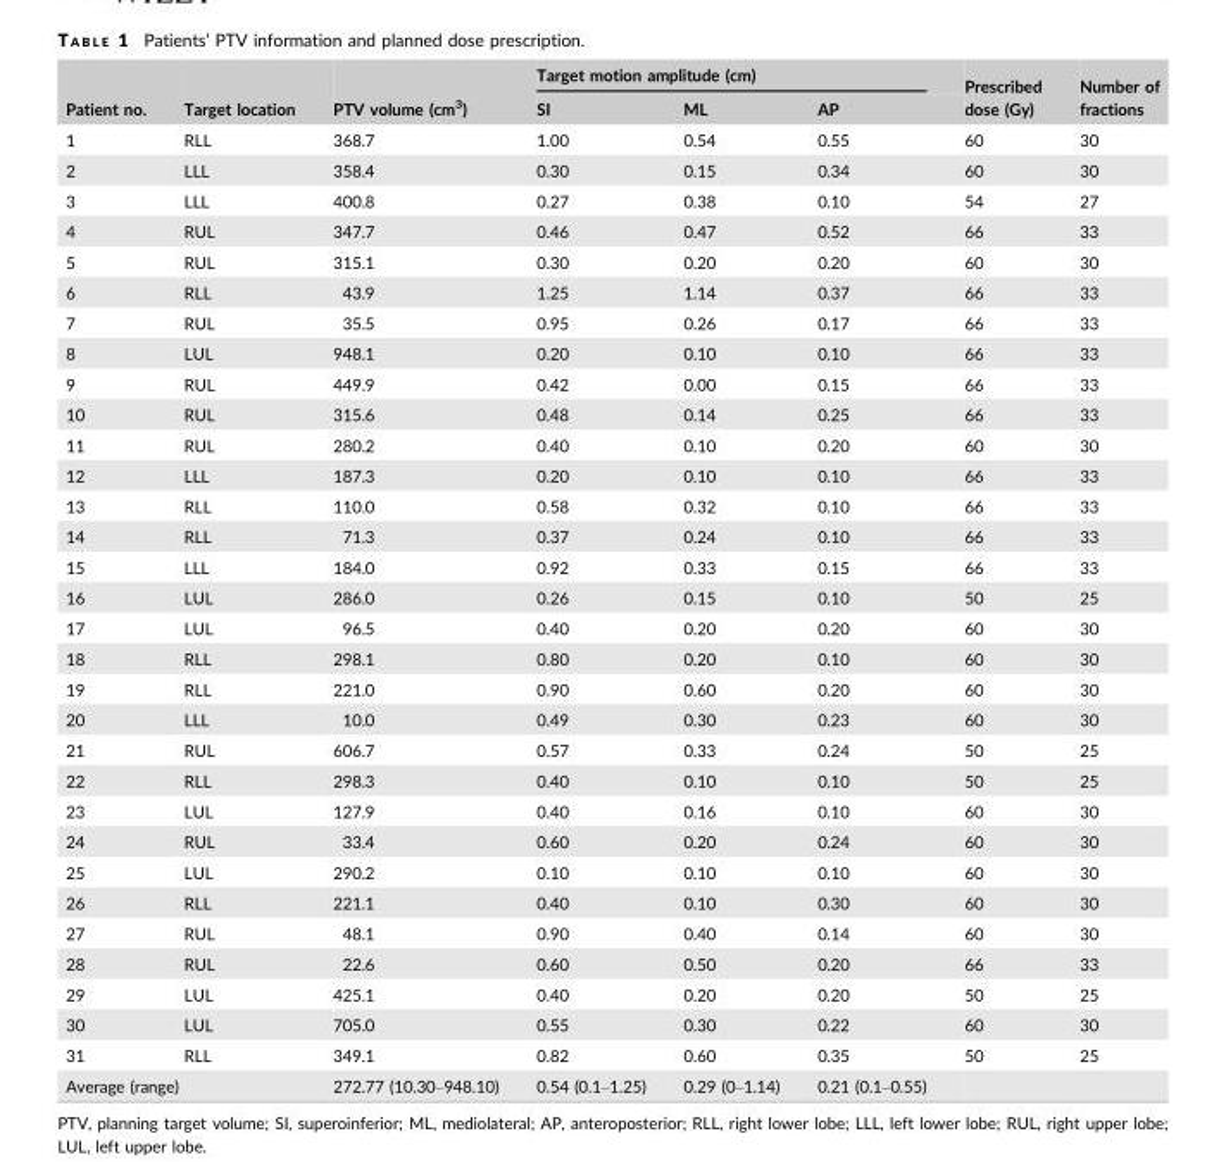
<table><thead><tr><td rowspan="2">Patient no.</td><td rowspan="2">Target location</td><td rowspan="2">PTV volume (cm<sup>3</sup>)</td><td colspan="3">Target motion amplitude (cm)</td><td rowspan="2">Prescribed dose (Gy)</td><td rowspan="2">Number of fractions</td></tr><tr><td>SI</td><td>ML</td><td>AP</td></tr></thead><tbody><tr><td>1</td><td>RLL</td><td>368.7</td><td>1.00</td><td>0.54</td><td>0.55</td><td>60</td><td>30</td></tr><tr><td>2</td><td>LLL</td><td>358.4</td><td>0.30</td><td>0.15</td><td>0.34</td><td>60</td><td>30</td></tr><tr><td>3</td><td>LLL</td><td>400.8</td><td>0.27</td><td>0.38</td><td>0.10</td><td>54</td><td>27</td></tr><tr><td>4</td><td>RUL</td><td>347.7</td><td>0.46</td><td>0.47</td><td>0.52</td><td>66</td><td>33</td></tr><tr><td>5</td><td>RUL</td><td>315.1</td><td>0.30</td><td>0.20</td><td>0.20</td><td>60</td><td>30</td></tr><tr><td>6</td><td>RLL</td><td>43.9</td><td>1.25</td><td>1.14</td><td>0.37</td><td>66</td><td>33</td></tr><tr><td>7</td><td>RUL</td><td>35.5</td><td>0.95</td><td>0.26</td><td>0.17</td><td>66</td><td>33</td></tr><tr><td>8</td><td>LUL</td><td>948.1</td><td>0.20</td><td>0.10</td><td>0.10</td><td>66</td><td>33</td></tr><tr><td>9</td><td>RUL</td><td>449.9</td><td>0.42</td><td>0.00</td><td>0.15</td><td>66</td><td>33</td></tr><tr><td>10</td><td>RUL</td><td>315.6</td><td>0.48</td><td>0.14</td><td>0.25</td><td>66</td><td>33</td></tr><tr><td>11</td><td>RUL</td><td>280.2</td><td>0.40</td><td>0.10</td><td>0.20</td><td>60</td><td>30</td></tr><tr><td>12</td><td>LLL</td><td>187.3</td><td>0.20</td><td>0.10</td><td>0.10</td><td>66</td><td>33</td></tr><tr><td>13</td><td>RLL</td><td>110.0</td><td>0.58</td><td>0.32</td><td>0.10</td><td>66</td><td>33</td></tr><tr><td>14</td><td>RLL</td><td>71.3</td><td>0.37</td><td>0.24</td><td>0.10</td><td>66</td><td>33</td></tr><tr><td>15</td><td>LLL</td><td>184.0</td><td>0.92</td><td>0.33</td><td>0.15</td><td>66</td><td>33</td></tr><tr><td>16</td><td>LUL</td><td>286.0</td><td>0.26</td><td>0.15</td><td>0.10</td><td>50</td><td>25</td></tr><tr><td>17</td><td>LUL</td><td>96.5</td><td>0.40</td><td>0.20</td><td>0.20</td><td>60</td><td>30</td></tr><tr><td>18</td><td>RLL</td><td>298.1</td><td>0.80</td><td>0.20</td><td>0.10</td><td>60</td><td>30</td></tr><tr><td>19</td><td>RLL</td><td>221.0</td><td>0.90</td><td>0.60</td><td>0.20</td><td>60</td><td>30</td></tr><tr><td>20</td><td>LLL</td><td>10.0</td><td>0.49</td><td>0.30</td><td>0.23</td><td>60</td><td>30</td></tr><tr><td>21</td><td>RUL</td><td>606.7</td><td>0.57</td><td>0.33</td><td>0.24</td><td>50</td><td>25</td></tr><tr><td>22</td><td>RLL</td><td>298.3</td><td>0.40</td><td>0.10</td><td>0.10</td><td>50</td><td>25</td></tr><tr><td>23</td><td>LUL</td><td>127.9</td><td>0.40</td><td>0.16</td><td>0.10</td><td>60</td><td>30</td></tr><tr><td>24</td><td>RUL</td><td>33.4</td><td>0.60</td><td>0.20</td><td>0.24</td><td>60</td><td>30</td></tr><tr><td>25</td><td>LUL</td><td>290.2</td><td>0.10</td><td>0.10</td><td>0.10</td><td>60</td><td>30</td></tr><tr><td>26</td><td>RLL</td><td>221.1</td><td>0.40</td><td>0.10</td><td>0.30</td><td>60</td><td>30</td></tr><tr><td>27</td><td>RUL</td><td>48.1</td><td>0.90</td><td>0.40</td><td>0.14</td><td>60</td><td>30</td></tr><tr><td>28</td><td>RUL</td><td>22.6</td><td>0.60</td><td>0.50</td><td>0.20</td><td>66</td><td>33</td></tr><tr><td>29</td><td>LUL</td><td>425.1</td><td>0.40</td><td>0.20</td><td>0.20</td><td>50</td><td>25</td></tr><tr><td>30</td><td>LUL</td><td>705.0</td><td>0.55</td><td>0.30</td><td>0.22</td><td>60</td><td>30</td></tr><tr><td>31</td><td>RLL</td><td>349.1</td><td>0.82</td><td>0.60</td><td>0.35</td><td>50</td><td>25</td></tr><tr><td colspan="2">Average (range)</td><td>272.77 (10.30–948.10)</td><td>0.54 (0.1–1.25)</td><td>0.29 (0–1.14)</td><td>0.21 (0.1–0.55)</td><td></td><td></td></tr></tbody></table>